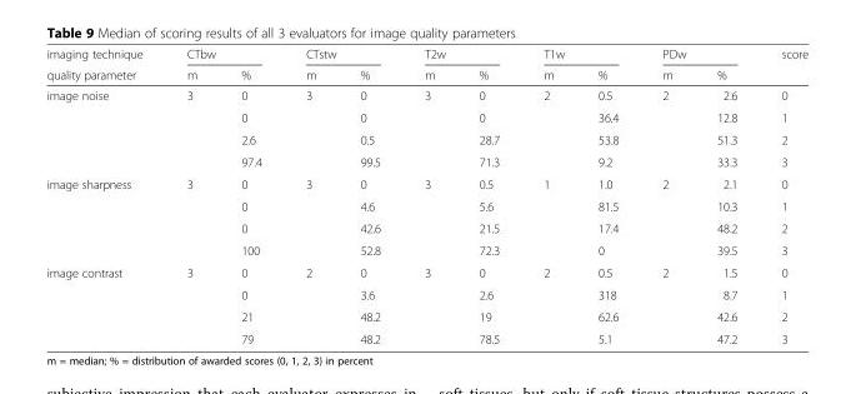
<table><thead><tr><td rowspan="2">imaging technique quality parameter</td><td colspan="2">CTbw</td><td colspan="2">CTstw</td><td colspan="2">T2w</td><td colspan="2">T1w</td><td colspan="2">PDw</td><td rowspan="2">score</td></tr><tr><td>m</td><td>%</td><td>m</td><td>%</td><td>m</td><td>%</td><td>m</td><td>%</td><td>m</td><td>%</td></tr></thead><tbody><tr><td rowspan="4">image noise</td><td rowspan="4">3</td><td>0</td><td rowspan="4">3</td><td>0</td><td rowspan="4">3</td><td>0</td><td rowspan="4">2</td><td>0.5</td><td rowspan="4">2</td><td>2.6</td><td>0</td></tr><tr><td>0</td><td>0</td><td>0</td><td>36.4</td><td>12.8</td><td>1</td></tr><tr><td>2.6</td><td>0.5</td><td>28.7</td><td>53.8</td><td>51.3</td><td>2</td></tr><tr><td>97.4</td><td>99.5</td><td>71.3</td><td>9.2</td><td>33.3</td><td>3</td></tr><tr><td rowspan="4">image sharpness</td><td rowspan="4">3</td><td>0</td><td rowspan="4">3</td><td>0</td><td rowspan="4">3</td><td>0.5</td><td rowspan="4">1</td><td>1.0</td><td rowspan="4">2</td><td>2.1</td><td>0</td></tr><tr><td>0</td><td>4.6</td><td>5.6</td><td>81.5</td><td>10.3</td><td>1</td></tr><tr><td>0</td><td>42.6</td><td>21.5</td><td>17.4</td><td>48.2</td><td>2</td></tr><tr><td>100</td><td>52.8</td><td>72.3</td><td>0</td><td>39.5</td><td>3</td></tr><tr><td rowspan="4">image contrast</td><td rowspan="4">3</td><td>0</td><td rowspan="4">2</td><td>0</td><td rowspan="4">3</td><td>0</td><td rowspan="4">2</td><td>0.5</td><td rowspan="4">2</td><td>1.5</td><td>0</td></tr><tr><td>0</td><td>3.6</td><td>2.6</td><td>318</td><td>8.7</td><td>1</td></tr><tr><td>21</td><td>48.2</td><td>19</td><td>62.6</td><td>42.6</td><td>2</td></tr><tr><td>79</td><td>48.2</td><td>78.5</td><td>5.1</td><td>47.2</td><td>3</td></tr></tbody></table>